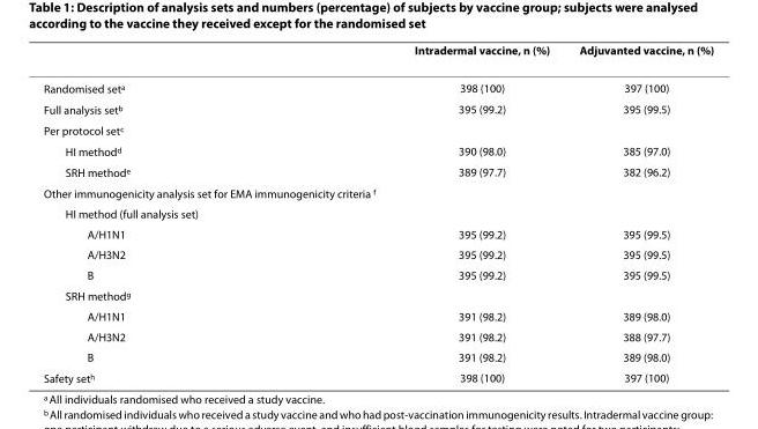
<table><thead><tr><td></td><td>Intradermal vaccine, n (%)</td><td>Adjuvanted vaccine, n (%)</td></tr></thead><tbody><tr><td>Randomised set<sup>a</sup></td><td>398 (100)</td><td>397 (100)</td></tr><tr><td>Full analysis set<sup>b</sup></td><td>395 (99.2)</td><td>395 (99.5)</td></tr><tr><td colspan="3">Per protocol set<sup>c</sup></td></tr><tr><td>HI method<sup>d</sup></td><td>390 (98.0)</td><td>385 (97.0)</td></tr><tr><td>SRH method<sup>e</sup></td><td>389 (97.7)</td><td>382 (96.2)</td></tr><tr><td colspan="3">Other immunogenicity analysis set for EMA immunogenicity criteria <sup>f</sup></td></tr><tr><td colspan="3">HI method (full analysis set)</td></tr><tr><td>A/H1N1</td><td>395 (99.2)</td><td>395 (99.5)</td></tr><tr><td>A/H3N2</td><td>395 (99.2)</td><td>395 (99.5)</td></tr><tr><td>B</td><td>395 (99.2)</td><td>395 (99.5)</td></tr><tr><td colspan="3">SRH method<sup>g</sup></td></tr><tr><td>A/H1N1</td><td>391 (98.2)</td><td>389 (98.0)</td></tr><tr><td>A/H3N2</td><td>391 (98.2)</td><td>388 (97.7)</td></tr><tr><td>B</td><td>391 (98.2)</td><td>389 (98.0)</td></tr><tr><td>Safety set<sup>h</sup></td><td>398 (100)</td><td>397 (100)</td></tr></tbody></table>